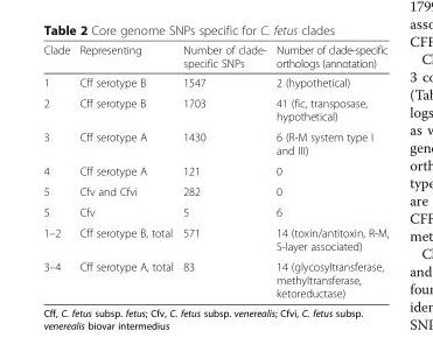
<table><thead><tr><td>Clade</td><td>Representing</td><td>Number of clade- specific SNPs</td><td>Number of clade-specific orthologs (annotation)</td></tr></thead><tbody><tr><td>1</td><td>Cff serotype B</td><td>1547</td><td>2 (hypothetical)</td></tr><tr><td>2</td><td>Cff serotype B</td><td>1703</td><td>41 (fic, transposase, hypothetical)</td></tr><tr><td>3</td><td>Cff serotype A</td><td>1430</td><td>6 (R-M system type I and III)</td></tr><tr><td>4</td><td>Cff serotype A</td><td>121</td><td>0</td></tr><tr><td>5</td><td>Cfv and Cfvi</td><td>282</td><td>0</td></tr><tr><td>5</td><td>Cfv</td><td>5</td><td>6</td></tr><tr><td>1–2</td><td>Cff serotype B, total</td><td>571</td><td>14 (toxin/antitoxin, R-M, S-layer associated)</td></tr><tr><td>3–4</td><td>Cff serotype A, total</td><td>83</td><td>14 (glycosyltransferase, methyltransferase, ketoreductase)</td></tr></tbody></table>